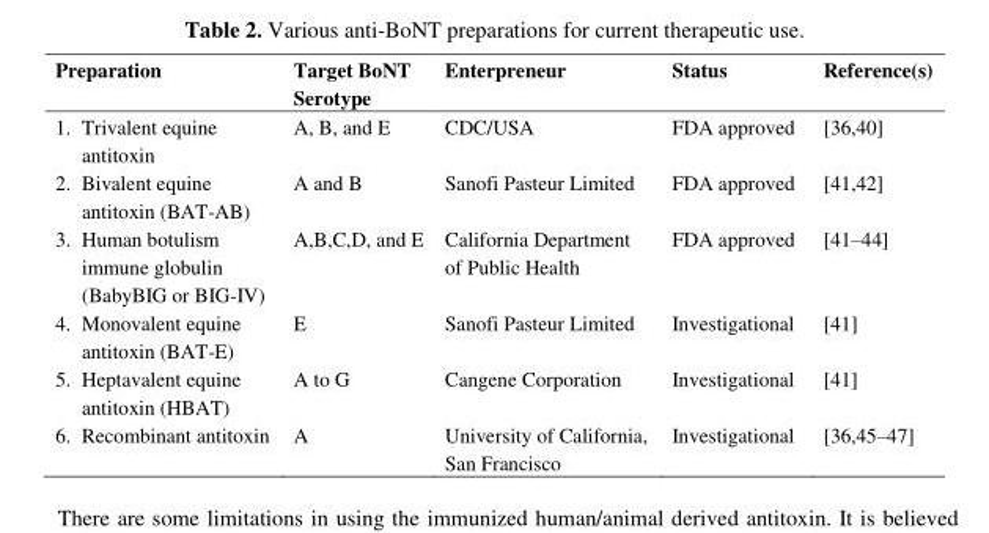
<table><thead><tr><td>Preparation</td><td>Target BoNT Serotype</td><td>Enterpreneur</td><td>Status</td><td>Reference(s)</td></tr></thead><tbody><tr><td>1. Trivalent equine antitoxin</td><td>A, B, and E</td><td>CDC/USA</td><td>FDA approved</td><td>[36,40]</td></tr><tr><td>2. Bivalent equine antitoxin (BAT-AB)</td><td>A and B</td><td>Sanofi Pasteur Limited</td><td>FDA approved</td><td>[41,42]</td></tr><tr><td>3. Human botulism immune globulin (BabyBIG or BIG-IV)</td><td>A,B,C,D, and E</td><td>California Department of Public Health</td><td>FDA approved</td><td>[41–44]</td></tr><tr><td>4. Monovalent equine antitoxin (BAT-E)</td><td>E</td><td>Sanofi Pasteur Limited</td><td>Investigational</td><td>[41]</td></tr><tr><td>5. Heptavalent equine antitoxin (HBAT)</td><td>A to G</td><td>Cangene Corporation</td><td>Investigational</td><td>[41]</td></tr><tr><td>6. Recombinant antitoxin</td><td>A</td><td>University of California, San Francisco</td><td>Investigational</td><td>[36,45–47]</td></tr></tbody></table>